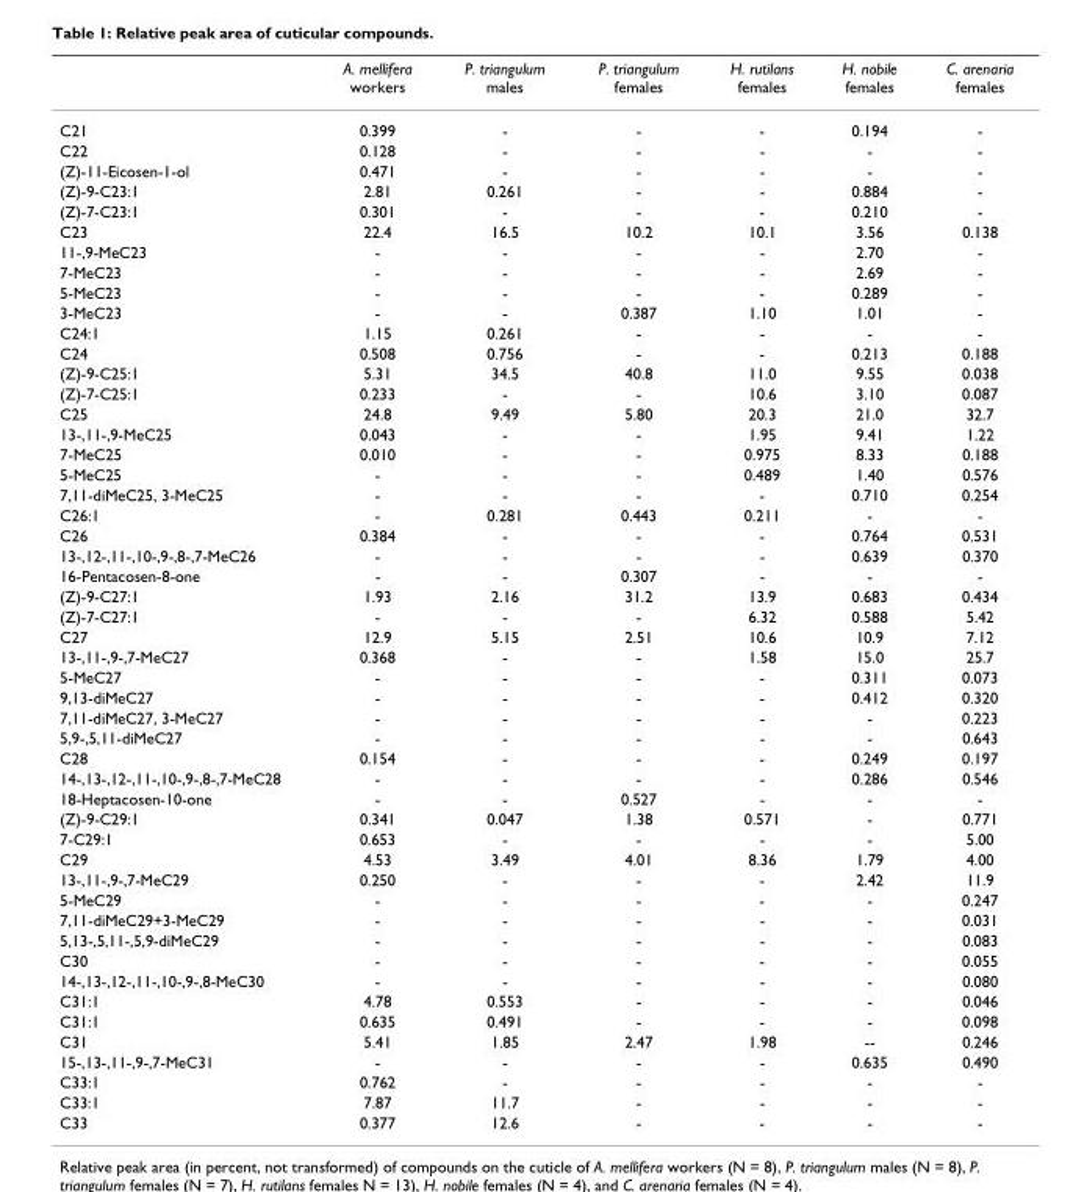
<table><thead><tr><td></td><td>A. mellifera workers</td><td>P. triangulum males</td><td>P. triangulum females</td><td>H. rutilans females</td><td>H. nobile females</td><td>C. arenaria females</td></tr></thead><tbody><tr><td>C21</td><td>0.399</td><td>-</td><td>-</td><td>-</td><td>0.194</td><td>-</td></tr><tr><td>C22</td><td>0.128</td><td>-</td><td>-</td><td>-</td><td>-</td><td>-</td></tr><tr><td>(Z)-11-Eicosen-1-ol</td><td>0.471</td><td>-</td><td>-</td><td>-</td><td>-</td><td>-</td></tr><tr><td>(Z)-9-C23:1</td><td>2.81</td><td>0.261</td><td>-</td><td>-</td><td>0.884</td><td>-</td></tr><tr><td>(Z)-7-C23:1</td><td>0.301</td><td>-</td><td>-</td><td>-</td><td>0.210</td><td>-</td></tr><tr><td>C23</td><td>22.4</td><td>16.5</td><td>10.2</td><td>10.1</td><td>3.56</td><td>0.138</td></tr><tr><td>11-,9-MeC23</td><td>-</td><td>-</td><td>-</td><td>-</td><td>2.70</td><td>-</td></tr><tr><td>7-MeC23</td><td>-</td><td>-</td><td>-</td><td>-</td><td>2.69</td><td>-</td></tr><tr><td>5-MeC23</td><td>-</td><td>-</td><td>-</td><td>-</td><td>0.289</td><td>-</td></tr><tr><td>3-MeC23</td><td>-</td><td>-</td><td>0.387</td><td>1.10</td><td>1.01</td><td>-</td></tr><tr><td>C24:1</td><td>1.15</td><td>0.261</td><td>-</td><td>-</td><td>-</td><td>-</td></tr><tr><td>C24</td><td>0.508</td><td>0.756</td><td>-</td><td>-</td><td>0.213</td><td>0.188</td></tr><tr><td>(Z)-9-C25:1</td><td>5.31</td><td>34.5</td><td>40.8</td><td>11.0</td><td>9.55</td><td>0.038</td></tr><tr><td>(Z)-7-C25:1</td><td>0.233</td><td>-</td><td>-</td><td>10.6</td><td>3.10</td><td>0.087</td></tr><tr><td>C25</td><td>24.8</td><td>9.49</td><td>5.80</td><td>20.3</td><td>21.0</td><td>32.7</td></tr><tr><td>13-,11-,9-MeC25</td><td>0.043</td><td>-</td><td>-</td><td>1.95</td><td>9.41</td><td>1.22</td></tr><tr><td>7-MeC25</td><td>0.010</td><td>-</td><td>-</td><td>0.975</td><td>8.33</td><td>0.188</td></tr><tr><td>5-MeC25</td><td>-</td><td>-</td><td>-</td><td>0.489</td><td>1.40</td><td>0.576</td></tr><tr><td>7,11-diMeC25, 3-MeC25</td><td>-</td><td>-</td><td>-</td><td>-</td><td>0.710</td><td>0.254</td></tr><tr><td>C26:1</td><td>-</td><td>0.281</td><td>0.443</td><td>0.211</td><td>-</td><td>-</td></tr><tr><td>C26</td><td>0.384</td><td>-</td><td>-</td><td>-</td><td>0.764</td><td>0.531</td></tr><tr><td>13-,12-,11-,10-,9-,8-,7-MeC26</td><td>-</td><td>-</td><td>-</td><td>-</td><td>0.639</td><td>0.370</td></tr><tr><td>16-Pentacosen-8-one</td><td>-</td><td>-</td><td>0.307</td><td>-</td><td>-</td><td>-</td></tr><tr><td>(Z)-9-C27:1</td><td>1.93</td><td>2.16</td><td>31.2</td><td>13.9</td><td>0.683</td><td>0.434</td></tr><tr><td>(Z)-7-C27:1</td><td>-</td><td>-</td><td>-</td><td>6.32</td><td>0.588</td><td>5.42</td></tr><tr><td>C27</td><td>12.9</td><td>5.15</td><td>2.51</td><td>10.6</td><td>10.9</td><td>7.12</td></tr><tr><td>13-,11-,9-,7-MeC27</td><td>0.368</td><td>-</td><td>-</td><td>1.58</td><td>15.0</td><td>25.7</td></tr><tr><td>5-MeC27</td><td>-</td><td>-</td><td>-</td><td>-</td><td>0.311</td><td>0.073</td></tr><tr><td>9,13-diMeC27</td><td>-</td><td>-</td><td>-</td><td>-</td><td>0.412</td><td>0.320</td></tr><tr><td>7,11-diMeC27, 3-MeC27</td><td>-</td><td>-</td><td>-</td><td>-</td><td>-</td><td>0.223</td></tr><tr><td>5,9-,5,11-diMeC27</td><td>-</td><td>-</td><td>-</td><td>-</td><td>-</td><td>0.643</td></tr><tr><td>C28</td><td>0.154</td><td>-</td><td>-</td><td>-</td><td>0.249</td><td>0.197</td></tr><tr><td>14-,13-,12-,11-,10-,9-,8-,7-MeC28</td><td>-</td><td>-</td><td>-</td><td>-</td><td>0.286</td><td>0.546</td></tr><tr><td>18-Heptacosen-10-one</td><td>-</td><td>-</td><td>0.527</td><td>-</td><td>-</td><td>-</td></tr><tr><td>(Z)-9-C29:1</td><td>0.341</td><td>0.047</td><td>1.38</td><td>0.571</td><td>-</td><td>0.771</td></tr><tr><td>7-C29:1</td><td>0.653</td><td>-</td><td>-</td><td>-</td><td>-</td><td>5.00</td></tr><tr><td>C29</td><td>4.53</td><td>3.49</td><td>4.01</td><td>8.36</td><td>1.79</td><td>4.00</td></tr><tr><td>13-,11-,9-,7-MeC29</td><td>0.250</td><td>-</td><td>-</td><td>-</td><td>2.42</td><td>11.9</td></tr><tr><td>5-MeC29</td><td>-</td><td>-</td><td>-</td><td>-</td><td>-</td><td>0.247</td></tr><tr><td>7,11-diMeC29+3-MeC29</td><td>-</td><td>-</td><td>-</td><td>-</td><td>-</td><td>0.031</td></tr><tr><td>5,13-,5,11-,5,9-diMeC29</td><td>-</td><td>-</td><td>-</td><td>-</td><td>-</td><td>0.083</td></tr><tr><td>C30</td><td>-</td><td>-</td><td>-</td><td>-</td><td>-</td><td>0.055</td></tr><tr><td>14-,13-,12-,11-,10-,9-,8-MeC30</td><td>-</td><td>-</td><td>-</td><td>-</td><td>-</td><td>0.080</td></tr><tr><td>C31:1</td><td>4.78</td><td>0.553</td><td>-</td><td>-</td><td>-</td><td>0.046</td></tr><tr><td>C31:1</td><td>0.635</td><td>0.491</td><td>-</td><td>-</td><td>-</td><td>0.098</td></tr><tr><td>C31</td><td>5.41</td><td>1.85</td><td>2.47</td><td>1.98</td><td>--</td><td>0.246</td></tr><tr><td>15-,13-,11-,9-,7-MeC31</td><td>-</td><td>-</td><td>-</td><td>-</td><td>0.635</td><td>0.490</td></tr><tr><td>C33:1</td><td>0.762</td><td>-</td><td>-</td><td>-</td><td>-</td><td>-</td></tr><tr><td>C33:1</td><td>7.87</td><td>11.7</td><td>-</td><td>-</td><td>-</td><td>-</td></tr><tr><td>C33</td><td>0.377</td><td>12.6</td><td>-</td><td>-</td><td>-</td><td>-</td></tr></tbody></table>